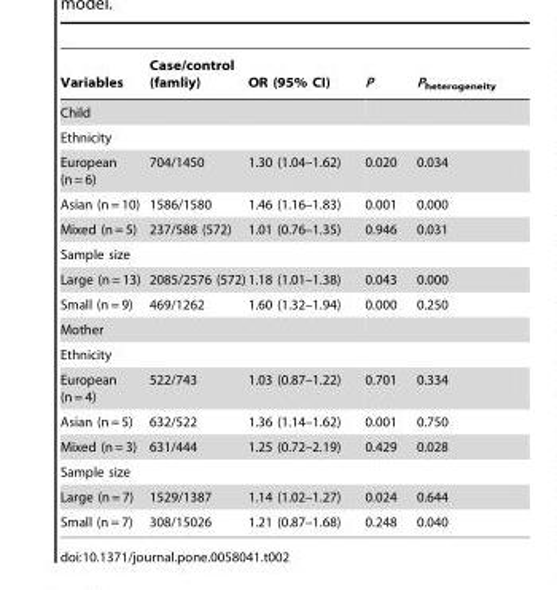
<table><thead><tr><td>Variables</td><td>Case/control (famliy)</td><td>OR (95% CI)</td><td>P</td><td>P<sub>heterogeneity</sub></td></tr></thead><tbody><tr><td colspan="5">Child</td></tr><tr><td colspan="5">Ethnicity</td></tr><tr><td>European (n = 6)</td><td>704/1450</td><td>1.30 (1.04–1.62)</td><td>0.020</td><td>0.034</td></tr><tr><td>Asian (n = 10)</td><td>1586/1580</td><td>1.46 (1.16–1.83)</td><td>0.001</td><td>0.000</td></tr><tr><td>Mixed (n = 5)</td><td>237/588 (572)</td><td>1.01 (0.76–1.35)</td><td>0.946</td><td>0.031</td></tr><tr><td colspan="5">Sample size</td></tr><tr><td>Large (n = 13)</td><td>2085/2576 (572)</td><td>1.18 (1.01–1.38)</td><td>0.043</td><td>0.000</td></tr><tr><td>Small (n = 9)</td><td>469/1262</td><td>1.60 (1.32–1.94)</td><td>0.000</td><td>0.250</td></tr><tr><td colspan="5">Mother</td></tr><tr><td colspan="5">Ethnicity</td></tr><tr><td>European (n = 4)</td><td>522/743</td><td>1.03 (0.87–1.22)</td><td>0.701</td><td>0.334</td></tr><tr><td>Asian (n = 5)</td><td>632/522</td><td>1.36 (1.14–1.62)</td><td>0.001</td><td>0.750</td></tr><tr><td>Mixed (n = 3)</td><td>631/444</td><td>1.25 (0.72–2.19)</td><td>0.429</td><td>0.028</td></tr><tr><td colspan="5">Sample size</td></tr><tr><td>Large (n = 7)</td><td>1529/1387</td><td>1.14 (1.02–1.27)</td><td>0.024</td><td>0.644</td></tr><tr><td>Small (n = 7)</td><td>308/15026</td><td>1.21 (0.87–1.68)</td><td>0.248</td><td>0.040</td></tr></tbody></table>